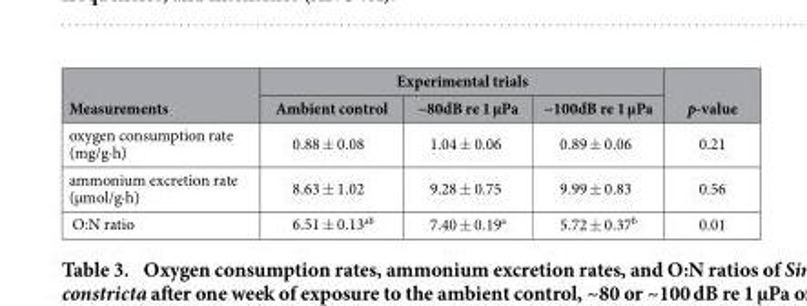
<table><thead><tr><td rowspan="2">Measurements</td><td colspan="3">Experimental trials</td><td rowspan="2">p-value</td></tr><tr><td>Ambient control</td><td>~80dB re 1 μPa</td><td>~100dB re 1 μPa</td></tr></thead><tbody><tr><td>oxygen consumption rate (mg/g·h)</td><td>0.88 ± 0.08</td><td>1.04 ± 0.06</td><td>0.89 ± 0.06</td><td>0.21</td></tr><tr><td>ammonium excretion rate (μmol/g·h)</td><td>8.63 ± 1.02</td><td>9.28 ± 0.75</td><td>9.99 ± 0.83</td><td>0.56</td></tr><tr><td>O:N ratio</td><td>6.51 ± 0.13<sup>ab</sup></td><td>7.40 ± 0.19<sup>a</sup></td><td>5.72 ± 0.37<sup>b</sup></td><td>0.01</td></tr></tbody></table>